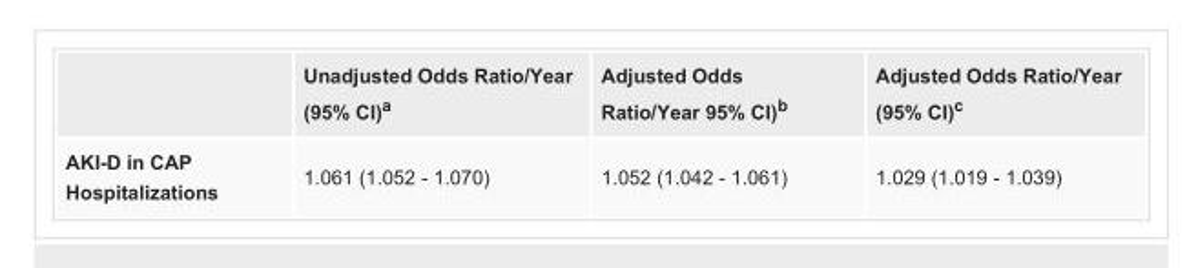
<table><thead><tr><td></td><td>Unadjusted Odds Ratio/Year (95% CI)<sup>a</sup></td><td>Adjusted Odds Ratio/Year 95% CI)<sup>b</sup></td><td>Adjusted Odds Ratio/Year (95% CI)<sup>c</sup></td></tr></thead><tbody><tr><td>AKI-D in CAP Hospitalizations</td><td>1.061 (1.052 - 1.070)</td><td>1.052 (1.042 - 1.061)</td><td>1.029 (1.019 - 1.039)</td></tr></tbody></table>